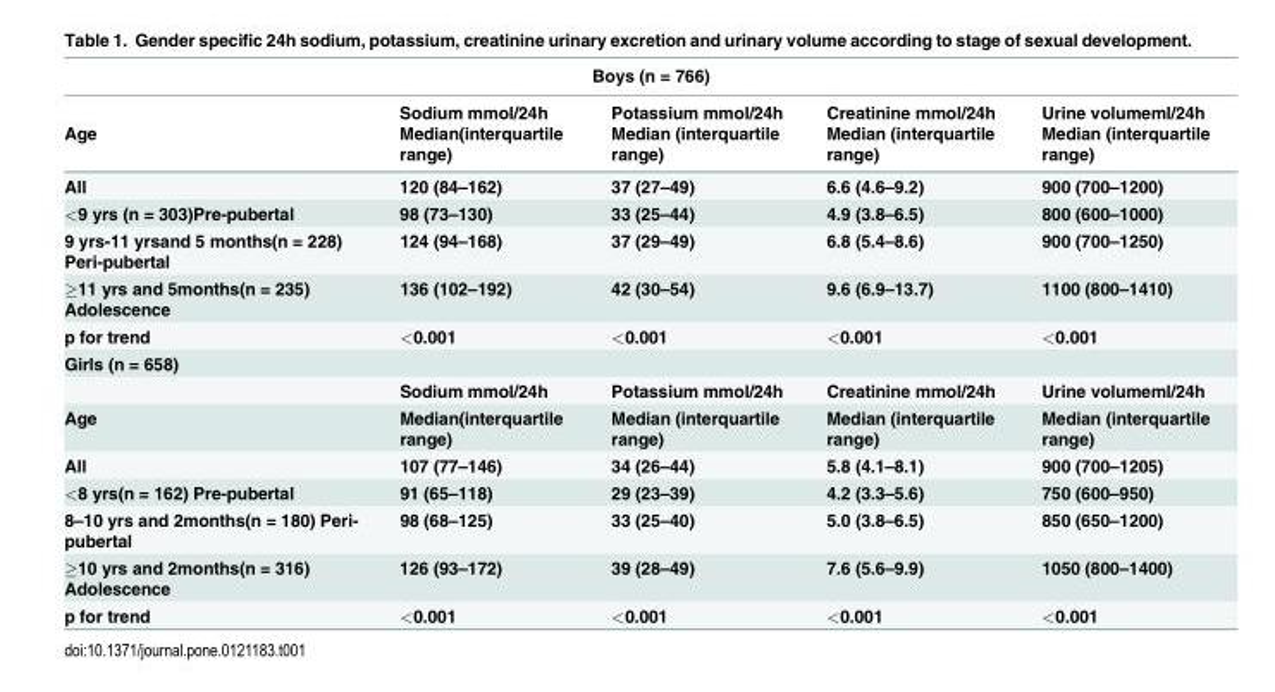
<table><thead><tr><td colspan="5">Boys (n = 766)</td></tr><tr><td rowspan="2">Age</td><td rowspan="2">Sodium mmol/24h Median(interquartile range)</td><td rowspan="2">Potassium mmol/24h Median (interquartile range)</td><td rowspan="2">Creatinine mmol/24h Median (interquartile range)</td><td rowspan="2">Urine volumeml/24h Median (interquartile range)</td></tr><tr></tr></thead><tbody><tr><td>All</td><td>120 (84–162)</td><td>37 (27–49)</td><td>6.6 (4.6–9.2)</td><td>900 (700–1200)</td></tr><tr><td>&lt;9 yrs (n = 303)Pre-pubertal</td><td>98 (73–130)</td><td>33 (25–44)</td><td>4.9 (3.8–6.5)</td><td>800 (600–1000)</td></tr><tr><td>9 yrs-11 yrsand 5 months(n = 228) Peri-pubertal</td><td>124 (94–168)</td><td>37 (29–49)</td><td>6.8 (5.4–8.6)</td><td>900 (700–1250)</td></tr><tr><td>≥11 yrs and 5months(n = 235) Adolescence</td><td>136 (102–192)</td><td>42 (30–54)</td><td>9.6 (6.9–13.7)</td><td>1100 (800–1410)</td></tr><tr><td>p for trend</td><td>&lt;0.001</td><td>&lt;0.001</td><td>&lt;0.001</td><td>&lt;0.001</td></tr><tr><td colspan="5">Girls (n = 658)</td></tr><tr><td></td><td>Sodium mmol/24h</td><td>Potassium mmol/24h</td><td>Creatinine mmol/24h</td><td>Urine volumeml/24h</td></tr><tr><td>Age</td><td>Median(interquartile range)</td><td>Median (interquartile range)</td><td>Median (interquartile range)</td><td>Median (interquartile range)</td></tr><tr><td>All</td><td>107 (77–146)</td><td>34 (26–44)</td><td>5.8 (4.1–8.1)</td><td>900 (700–1205)</td></tr><tr><td>&lt;8 yrs(n = 162) Pre-pubertal</td><td>91 (65–118)</td><td>29 (23–39)</td><td>4.2 (3.3–5.6)</td><td>750 (600–950)</td></tr><tr><td>8–10 yrs and 2months(n = 180) Peri- pubertal</td><td>98 (68–125)</td><td>33 (25–40)</td><td>5.0 (3.8–6.5)</td><td>850 (650–1200)</td></tr><tr><td>≥10 yrs and 2months(n = 316) Adolescence</td><td>126 (93–172)</td><td>39 (28–49)</td><td>7.6 (5.6–9.9)</td><td>1050 (800–1400)</td></tr><tr><td>p for trend</td><td>&lt;0.001</td><td>&lt;0.001</td><td>&lt;0.001</td><td>&lt;0.001</td></tr></tbody></table>